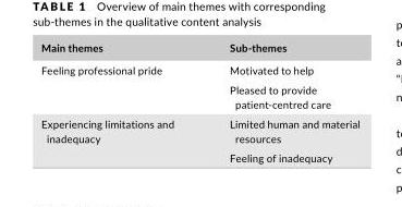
<table><thead><tr><td>Main themes</td><td>Sub- themes</td></tr></thead><tbody><tr><td rowspan="2">Feeling professional pride</td><td>Motivated to help</td></tr><tr><td>Pleased to provide patient- centred care</td></tr><tr><td rowspan="2">Experiencing limitations and inadequacy</td><td>Limited human and material resources</td></tr><tr><td>Feeling of inadequacy</td></tr></tbody></table>